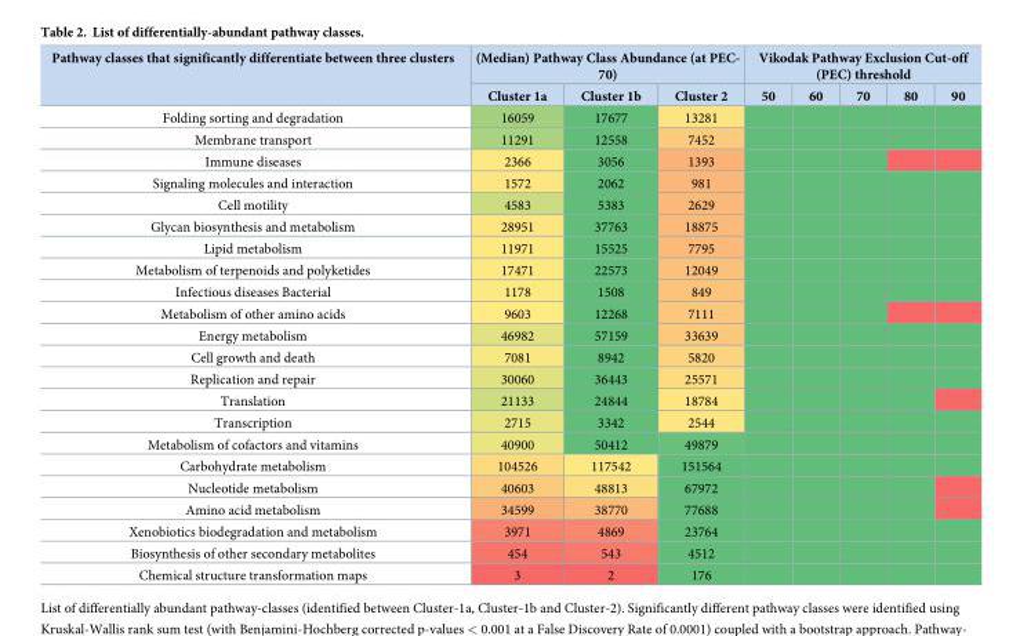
<table><thead><tr><td rowspan="2">Pathway classes that significantly differentiate between three clusters</td><td colspan="3">(Median) Pathway Class Abundance (at PEC- 70)</td><td colspan="5">Vikodak Pathway Exclusion Cut-off (PEC) threshold</td></tr><tr><td>Cluster 1a</td><td>Cluster 1b</td><td>Cluster 2</td><td>50</td><td>60</td><td>70</td><td>80</td><td>90</td></tr></thead><tbody><tr><td>Folding sorting and degradation</td><td>16059</td><td>17677</td><td>13281</td><td></td><td></td><td></td><td></td><td></td></tr><tr><td>Membrane transport</td><td>11291</td><td>12558</td><td>7452</td><td></td><td></td><td></td><td></td><td></td></tr><tr><td>Immune diseases</td><td>2366</td><td>3056</td><td>1393</td><td></td><td></td><td></td><td></td><td></td></tr><tr><td>Signaling molecules and interaction</td><td>1572</td><td>2062</td><td>981</td><td></td><td></td><td></td><td></td><td></td></tr><tr><td>Cell motility</td><td>4583</td><td>5383</td><td>2629</td><td></td><td></td><td></td><td></td><td></td></tr><tr><td>Glycan biosynthesis and metabolism</td><td>28951</td><td>37763</td><td>18875</td><td></td><td></td><td></td><td></td><td></td></tr><tr><td>Lipid metabolism</td><td>11971</td><td>15525</td><td>7795</td><td></td><td></td><td></td><td></td><td></td></tr><tr><td>Metabolism of terpenoids and polyketides</td><td>17471</td><td>22573</td><td>12049</td><td></td><td></td><td></td><td></td><td></td></tr><tr><td>Infectious diseases Bacterial</td><td>1178</td><td>1508</td><td>849</td><td></td><td></td><td></td><td></td><td></td></tr><tr><td>Metabolism of other amino acids</td><td>9603</td><td>12268</td><td>7111</td><td></td><td></td><td></td><td></td><td></td></tr><tr><td>Energy metabolism</td><td>46982</td><td>57159</td><td>33639</td><td></td><td></td><td></td><td></td><td></td></tr><tr><td>Cell growth and death</td><td>7081</td><td>8942</td><td>5820</td><td></td><td></td><td></td><td></td><td></td></tr><tr><td>Replication and repair</td><td>30060</td><td>36443</td><td>25571</td><td></td><td></td><td></td><td></td><td></td></tr><tr><td>Translation</td><td>21133</td><td>24844</td><td>18784</td><td></td><td></td><td></td><td></td><td></td></tr><tr><td>Transcription</td><td>2715</td><td>3342</td><td>2544</td><td></td><td></td><td></td><td></td><td></td></tr><tr><td>Metabolism of cofactors and vitamins</td><td>40900</td><td>50412</td><td>49879</td><td></td><td></td><td></td><td></td><td></td></tr><tr><td>Carbohydrate metabolism</td><td>104526</td><td>117542</td><td>151564</td><td></td><td></td><td></td><td></td><td></td></tr><tr><td>Nucleotide metabolism</td><td>40603</td><td>48813</td><td>67972</td><td></td><td></td><td></td><td></td><td></td></tr><tr><td>Amino acid metabolism</td><td>34599</td><td>38770</td><td>77688</td><td></td><td></td><td></td><td></td><td></td></tr><tr><td>Xenobiotics biodegradation and metabolism</td><td>3971</td><td>4869</td><td>23764</td><td></td><td></td><td></td><td></td><td></td></tr><tr><td>Biosynthesis of other secondary metabolites</td><td>454</td><td>543</td><td>4512</td><td></td><td></td><td></td><td></td><td></td></tr><tr><td>Chemical structure transformation maps</td><td>3</td><td>2</td><td>176</td><td></td><td></td><td></td><td></td><td></td></tr></tbody></table>